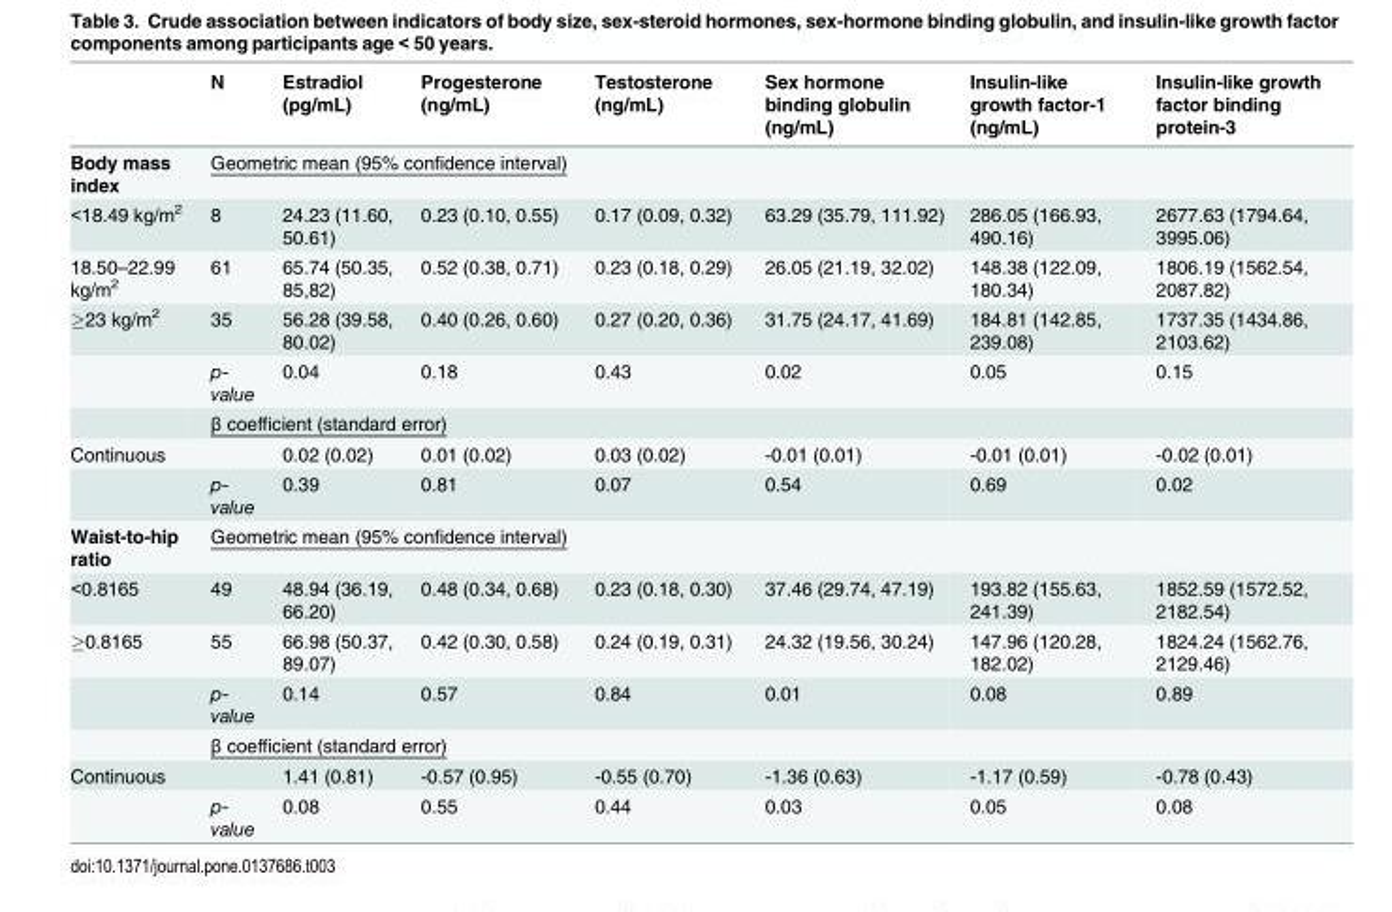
<table><thead><tr><td></td><td>N</td><td>Estradiol (pg/mL)</td><td>Progesterone (ng/mL)</td><td>Testosterone (ng/mL)</td><td>Sex hormone binding globulin (ng/mL)</td><td>Insulin-like growth factor-1 (ng/mL)</td><td>Insulin-like growth factor binding protein-3</td></tr></thead><tbody><tr><td>Body mass index</td><td colspan="7">Geometric mean (95% confidence interval)</td></tr><tr><td>&lt;18.49 kg/m<sup>2</sup></td><td>8</td><td>24.23 (11.60, 50.61)</td><td>0.23 (0.10, 0.55)</td><td>0.17 (0.09, 0.32)</td><td>63.29 (35.79, 111.92)</td><td>286.05 (166.93, 490.16)</td><td>2677.63 (1794.64, 3995.06)</td></tr><tr><td>18.50–22.99 kg/m<sup>2</sup></td><td>61</td><td>65.74 (50.35, 85,82)</td><td>0.52 (0.38, 0.71)</td><td>0.23 (0.18, 0.29)</td><td>26.05 (21.19, 32.02)</td><td>148.38 (122.09, 180.34)</td><td>1806.19 (1562.54, 2087.82)</td></tr><tr><td rowspan="3">≥23 kg/m<sup>2</sup></td><td>35</td><td>56.28 (39.58, 80.02)</td><td>0.40 (0.26, 0.60)</td><td>0.27 (0.20, 0.36)</td><td>31.75 (24.17, 41.69)</td><td>184.81 (142.85, 239.08)</td><td>1737.35 (1434.86, 2103.62)</td></tr><tr><td>p- value</td><td>0.04</td><td>0.18</td><td>0.43</td><td>0.02</td><td>0.05</td><td>0.15</td></tr><tr><td colspan="7">β coefficient (standard error)</td></tr><tr><td rowspan="2">Continuous</td><td></td><td>0.02 (0.02)</td><td>0.01 (0.02)</td><td>0.03 (0.02)</td><td>-0.01 (0.01)</td><td>-0.01 (0.01)</td><td>-0.02 (0.01)</td></tr><tr><td>p- value</td><td>0.39</td><td>0.81</td><td>0.07</td><td>0.54</td><td>0.69</td><td>0.02</td></tr><tr><td>Waist-to-hip ratio</td><td colspan="7">Geometric mean (95% confidence interval)</td></tr><tr><td>&lt;0.8165</td><td>49</td><td>48.94 (36.19, 66.20)</td><td>0.48 (0.34, 0.68)</td><td>0.23 (0.18, 0.30)</td><td>37.46 (29.74, 47.19)</td><td>193.82 (155.63, 241.39)</td><td>1852.59 (1572.52, 2182.54)</td></tr><tr><td rowspan="3">≥0.8165</td><td>55</td><td>66.98 (50.37, 89.07)</td><td>0.42 (0.30, 0.58)</td><td>0.24 (0.19, 0.31)</td><td>24.32 (19.56, 30.24)</td><td>147.96 (120.28, 182.02)</td><td>1824.24 (1562.76, 2129.46)</td></tr><tr><td>p- value</td><td>0.14</td><td>0.57</td><td>0.84</td><td>0.01</td><td>0.08</td><td>0.89</td></tr><tr><td colspan="7">β coefficient (standard error)</td></tr><tr><td rowspan="2">Continuous</td><td></td><td>1.41 (0.81)</td><td>-0.57 (0.95)</td><td>-0.55 (0.70)</td><td>-1.36 (0.63)</td><td>-1.17 (0.59)</td><td>-0.78 (0.43)</td></tr><tr><td>p- value</td><td>0.08</td><td>0.55</td><td>0.44</td><td>0.03</td><td>0.05</td><td>0.08</td></tr></tbody></table>